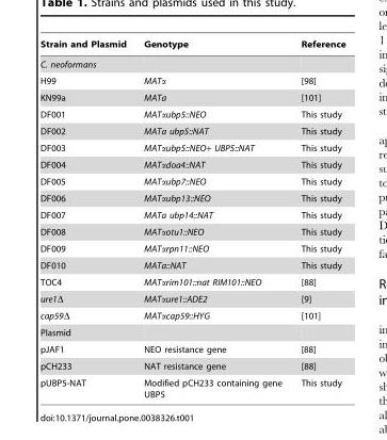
<table><thead><tr><td>Strain and Plasmid</td><td>Genotype</td><td>Reference</td></tr></thead><tbody><tr><td colspan="3">C. neoformans</td></tr><tr><td>H99</td><td>MATα</td><td>[98]</td></tr><tr><td>KN99a</td><td>MATa</td><td>[101]</td></tr><tr><td>DF001</td><td>MATαubp5::NEO</td><td>This study</td></tr><tr><td>DF002</td><td>MATa ubp5::NAT</td><td>This study</td></tr><tr><td>DF003</td><td>MATαubp5::NEO+ UBP5::NAT</td><td>This study</td></tr><tr><td>DF004</td><td>MATαdoa4::NAT</td><td>This study</td></tr><tr><td>DF005</td><td>MATαubp7::NEO</td><td>This study</td></tr><tr><td>DF006</td><td>MATαubp13::NEO</td><td>This study</td></tr><tr><td>DF007</td><td>MATa ubp14::NAT</td><td>This study</td></tr><tr><td>DF008</td><td>MATαotu1::NEO</td><td>This study</td></tr><tr><td>DF009</td><td>MATαrpn11::NEO</td><td>This study</td></tr><tr><td>DF010</td><td>MATa::NAT</td><td>This study</td></tr><tr><td>TOC4</td><td>MATαrim101::nat RIM101::NEO</td><td>[88]</td></tr><tr><td>ure1Δ</td><td>MATαure1::ADE2</td><td>[9]</td></tr><tr><td>cap59Δ</td><td>MATαcap59::HYG</td><td>[101]</td></tr><tr><td colspan="3">Plasmid</td></tr><tr><td>pJAF1</td><td>NEO resistance gene</td><td>[88]</td></tr><tr><td>pCH233</td><td>NAT resistance gene</td><td>[88]</td></tr><tr><td>pUBP5-NAT</td><td>Modified pCH233 containing gene UBP5</td><td>This study</td></tr></tbody></table>